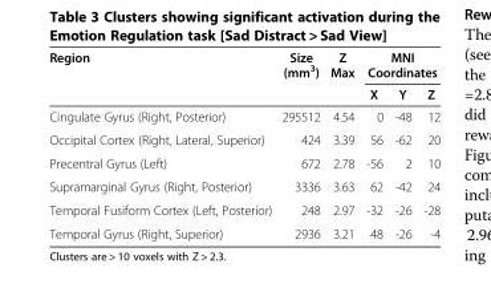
<table><thead><tr><td rowspan="2">Region</td><td rowspan="2">Size (mm<sup>3</sup>)</td><td rowspan="2">Z Max</td><td colspan="3">MNI Coordinates</td></tr><tr><td>X</td><td>Y</td><td>Z</td></tr></thead><tbody><tr><td>Cingulate Gyrus (Right, Posterior)</td><td>295512</td><td>4.54</td><td>0</td><td>-48</td><td>12</td></tr><tr><td>Occipital Cortex (Right, Lateral, Superior)</td><td>424</td><td>3.39</td><td>56</td><td>-62</td><td>20</td></tr><tr><td>Precentral Gyrus (Left)</td><td>672</td><td>2.78</td><td>-56</td><td>2</td><td>10</td></tr><tr><td>Supramarginal Gyrus (Right, Posterior)</td><td>3336</td><td>3.63</td><td>62</td><td>-42</td><td>24</td></tr><tr><td>Temporal Fusiform Cortex (Left, Posterior)</td><td>248</td><td>2.97</td><td>-32</td><td>-26</td><td>-28</td></tr><tr><td>Temporal Gyrus (Right, Superior)</td><td>2936</td><td>3.21</td><td>48</td><td>-26</td><td>-4</td></tr></tbody></table>